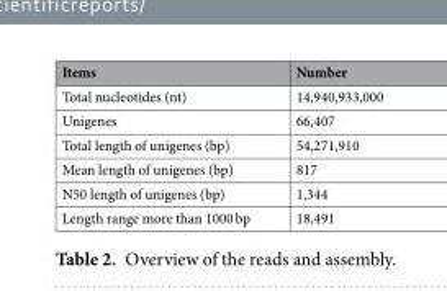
<table><thead><tr><td>Items</td><td>Number</td></tr></thead><tbody><tr><td>Total nucleotides (nt)</td><td>14,940,933,000</td></tr><tr><td>Unigenes</td><td>66,407</td></tr><tr><td>Total length of unigenes (bp)</td><td>54,271,910</td></tr><tr><td>Mean length of unigenes (bp)</td><td>817</td></tr><tr><td>N50 length of unigenes (bp)</td><td>1,344</td></tr><tr><td>Length range more than 1000 bp</td><td>18,491</td></tr></tbody></table>